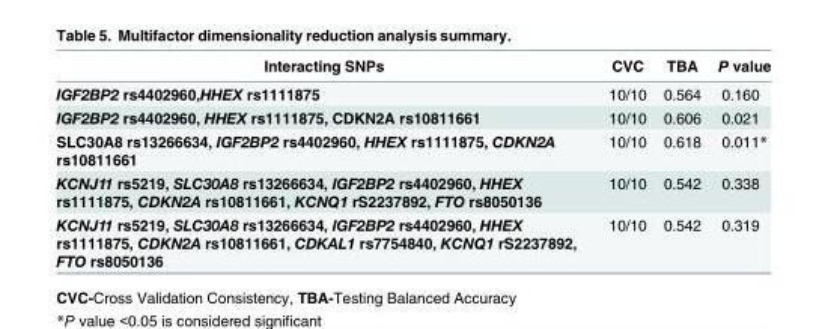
<table><thead><tr><td>Interacting SNPs</td><td>CVC</td><td>TBA</td><td>P value</td></tr></thead><tbody><tr><td>IGF2BP2 rs4402960,HHEX rs1111875</td><td>10/10</td><td>0.564</td><td>0.160</td></tr><tr><td>IGF2BP2 rs4402960, HHEX rs1111875, CDKN2A rs10811661</td><td>10/10</td><td>0.606</td><td>0.021</td></tr><tr><td>SLC30A8 rs13266634, IGF2BP2 rs4402960, HHEX rs1111875, CDKN2A rs10811661</td><td>10/10</td><td>0.618</td><td>0.011*</td></tr><tr><td>KCNJ11 rs5219, SLC30A8 rs13266634, IGF2BP2 rs4402960, HHEX rs1111875, CDKN2A rs10811661, KCNQ1 rS2237892, FTO rs8050136</td><td>10/10</td><td>0.542</td><td>0.338</td></tr><tr><td>KCNJ11 rs5219, SLC30A8 rs13266634, IGF2BP2 rs4402960, HHEX rs1111875, CDKN2A rs10811661, CDKAL1 rs7754840, KCNQ1 rS2237892, FTO rs8050136</td><td>10/10</td><td>0.542</td><td>0.319</td></tr></tbody></table>